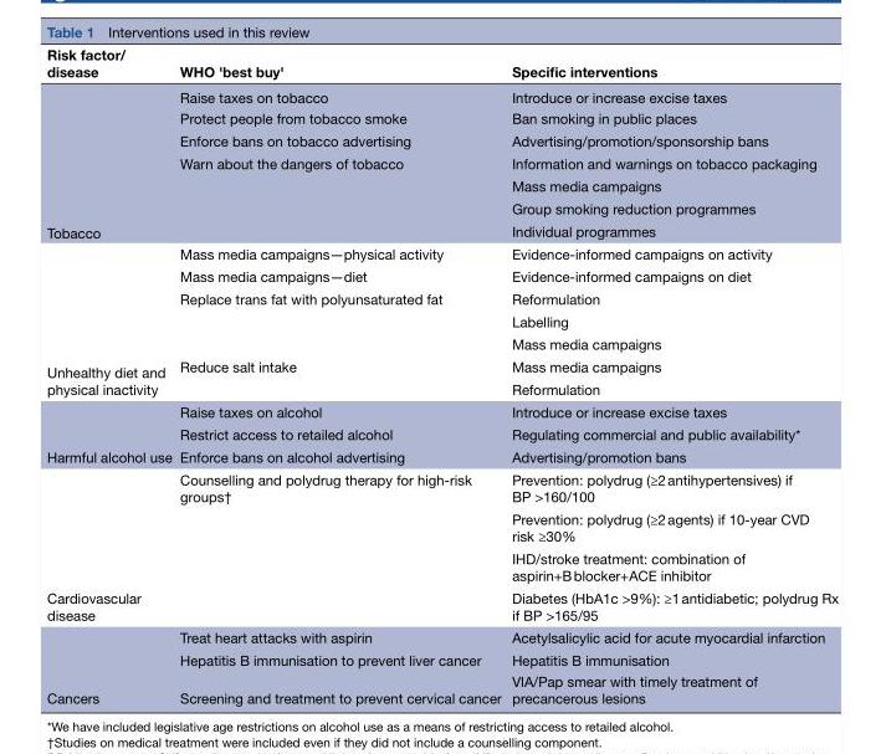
<table><thead><tr><td>Risk factor/ disease</td><td>WHO &#x27;best buy&#x27;</td><td>Specific interventions</td></tr></thead><tbody><tr><td rowspan="7">Tobacco</td><td>Raise taxes on tobacco</td><td>Introduce or increase excise taxes</td></tr><tr><td>Protect people from tobacco smoke</td><td>Ban smoking in public places</td></tr><tr><td>Enforce bans on tobacco advertising</td><td>Advertising/promotion/sponsorship bans</td></tr><tr><td>Warn about the dangers of tobacco</td><td>Information and warnings on tobacco packaging</td></tr><tr><td></td><td>Mass media campaigns</td></tr><tr><td></td><td>Group smoking reduction programmes</td></tr><tr><td></td><td>Individual programmes</td></tr><tr><td rowspan="7">Unhealthy diet and physical inactivity</td><td>Mass media campaigns—physical activity</td><td>Evidence-informed campaigns on activity</td></tr><tr><td>Mass media campaigns—diet</td><td>Evidence-informed campaigns on diet</td></tr><tr><td>Replace trans fat with polyunsaturated fat</td><td>Reformulation</td></tr><tr><td></td><td>Labelling</td></tr><tr><td></td><td>Mass media campaigns</td></tr><tr><td>Reduce salt intake</td><td>Mass media campaigns</td></tr><tr><td></td><td>Reformulation</td></tr><tr><td rowspan="3">Harmful alcohol use</td><td>Raise taxes on alcohol</td><td>Introduce or increase excise taxes</td></tr><tr><td>Restrict access to retailed alcohol</td><td>Regulating commercial and public availability*</td></tr><tr><td>Enforce bans on alcohol advertising</td><td>Advertising/promotion bans</td></tr><tr><td rowspan="4">Cardiovascular disease</td><td>Counselling and polydrug therapy for high-risk groups†</td><td>Prevention: polydrug (≥2 antihypertensives) if BP &gt;160/100</td></tr><tr><td></td><td>Prevention: polydrug (≥2 agents) if 10-year CVD risk ≥30%</td></tr><tr><td></td><td>IHD/stroke treatment: combination of aspirin+B blocker+ACE inhibitor</td></tr><tr><td></td><td>Diabetes (HbA1c &gt;9%): ≥1 antidiabetic; polydrug Rx if BP &gt;165/95</td></tr><tr><td rowspan="3">Cancers</td><td>Treat heart attacks with aspirin</td><td>Acetylsalicylic acid for acute myocardial infarction</td></tr><tr><td>Hepatitis B immunisation to prevent liver cancer</td><td>Hepatitis B immunisation</td></tr><tr><td>Screening and treatment to prevent cervical cancer</td><td>VIA/Pap smear with timely treatment of precancerous lesions</td></tr></tbody></table>